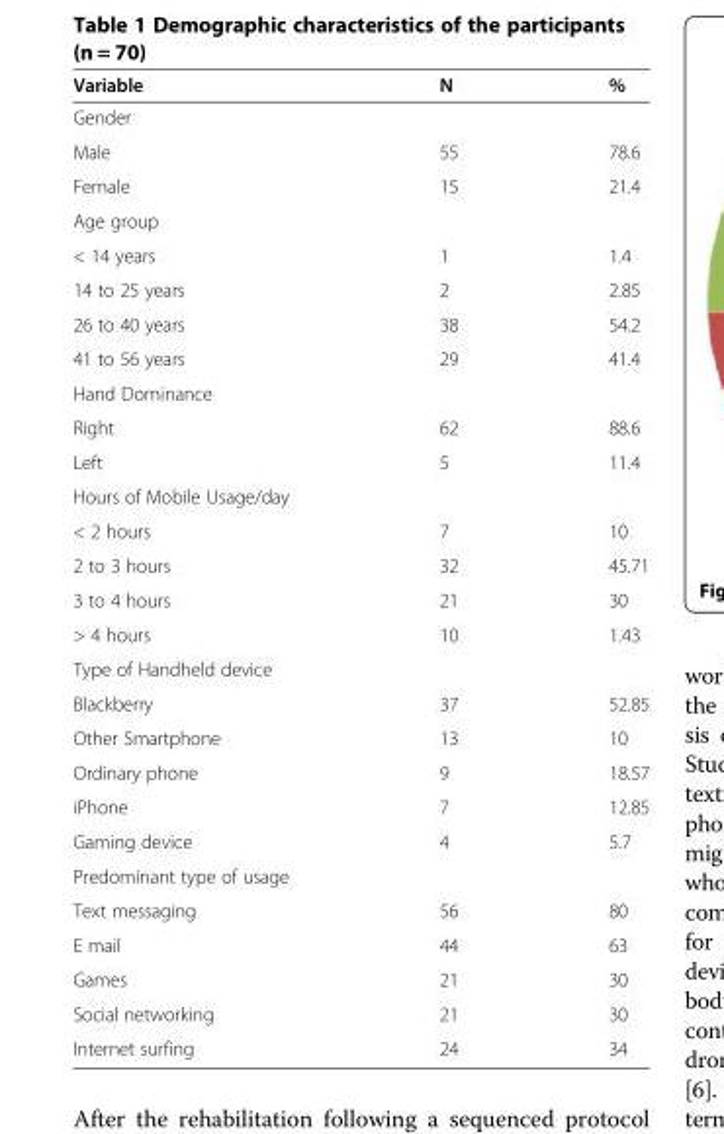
<table><thead><tr><td>Variable</td><td>N</td><td>%</td></tr></thead><tbody><tr><td colspan="3">Gender</td></tr><tr><td>Male</td><td>55</td><td>78.6</td></tr><tr><td>Female</td><td>15</td><td>21.4</td></tr><tr><td colspan="3">Age group</td></tr><tr><td>&lt; 14 years</td><td>1</td><td>1.4</td></tr><tr><td>14 to 25 years</td><td>2</td><td>2.85</td></tr><tr><td>26 to 40 years</td><td>38</td><td>54.2</td></tr><tr><td>41 to 56 years</td><td>29</td><td>41.4</td></tr><tr><td colspan="3">Hand Dominance</td></tr><tr><td>Right</td><td>62</td><td>88.6</td></tr><tr><td>Left</td><td>5</td><td>11.4</td></tr><tr><td colspan="3">Hours of Mobile Usage/day</td></tr><tr><td>&lt; 2 hours</td><td>7</td><td>10</td></tr><tr><td>2 to 3 hours</td><td>32</td><td>45.71</td></tr><tr><td>3 to 4 hours</td><td>21</td><td>30</td></tr><tr><td>&gt; 4 hours</td><td>10</td><td>1.43</td></tr><tr><td colspan="3">Type of Handheld device</td></tr><tr><td>Blackberry</td><td>37</td><td>52.85</td></tr><tr><td>Other Smartphone</td><td>13</td><td>10</td></tr><tr><td>Ordinary phone</td><td>9</td><td>18.57</td></tr><tr><td>iPhone</td><td>7</td><td>12.85</td></tr><tr><td>Gaming device</td><td>4</td><td>5.7</td></tr><tr><td colspan="3">Predominant type of usage</td></tr><tr><td>Text messaging</td><td>56</td><td>80</td></tr><tr><td>E mail</td><td>44</td><td>63</td></tr><tr><td>Games</td><td>21</td><td>30</td></tr><tr><td>Social networking</td><td>21</td><td>30</td></tr><tr><td>Internet surfing</td><td>24</td><td>34</td></tr></tbody></table>